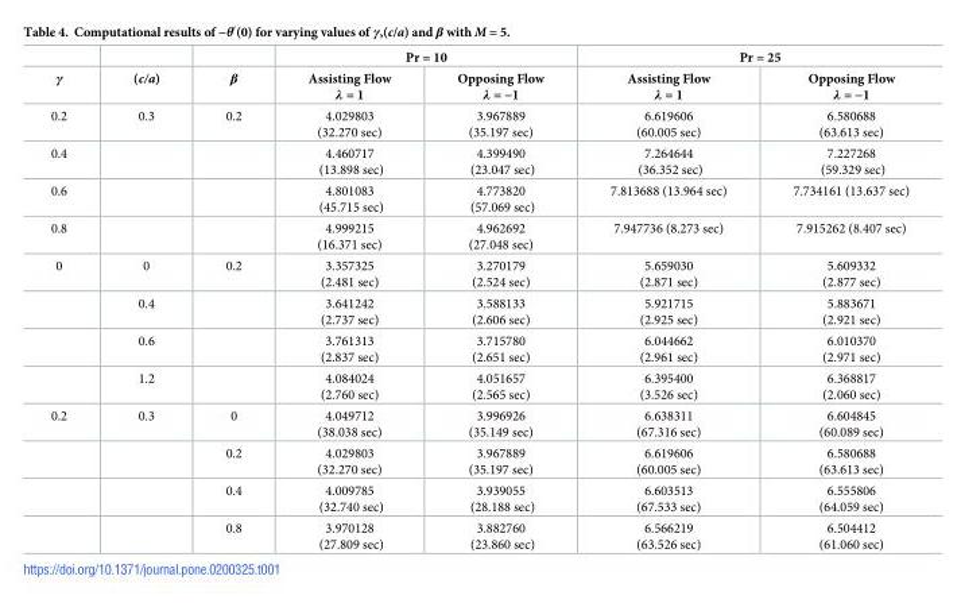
<table><thead><tr><td rowspan="2">γ</td><td rowspan="2">(c/a)</td><td rowspan="2">β</td><td colspan="2">Pr = 10</td><td colspan="2">Pr = 25</td></tr><tr><td>Assisting Flow λ = 1</td><td>Opposing Flow λ = −1</td><td>Assisting Flow λ = 1</td><td>Opposing Flow λ = −1</td></tr></thead><tbody><tr><td>0.2</td><td>0.3</td><td>0.2</td><td>4.029803 (32.270 sec)</td><td>3.967889 (35.197 sec)</td><td>6.619606 (60.005 sec)</td><td>6.580688 (63.613 sec)</td></tr><tr><td>0.4</td><td></td><td></td><td>4.460717 (13.898 sec)</td><td>4.399490 (23.047 sec)</td><td>7.264644 (36.352 sec)</td><td>7.227268 (59.329 sec)</td></tr><tr><td>0.6</td><td></td><td></td><td>4.801083 (45.715 sec)</td><td>4.773820 (57.069 sec)</td><td>7.813688 (13.964 sec)</td><td>7.734161 (13.637 sec)</td></tr><tr><td>0.8</td><td></td><td></td><td>4.999215 (16.371 sec)</td><td>4.962692 (27.048 sec)</td><td>7.947736 (8.273 sec)</td><td>7.915262 (8.407 sec)</td></tr><tr><td rowspan="4">0</td><td>0</td><td>0.2</td><td>3.357325 (2.481 sec)</td><td>3.270179 (2.524 sec)</td><td>5.659030 (2.871 sec)</td><td>5.609332 (2.877 sec)</td></tr><tr><td>0.4</td><td></td><td>3.641242 (2.737 sec)</td><td>3.588133 (2.606 sec)</td><td>5.921715 (2.925 sec)</td><td>5.883671 (2.921 sec)</td></tr><tr><td>0.6</td><td></td><td>3.761313 (2.837 sec)</td><td>3.715780 (2.651 sec)</td><td>6.044662 (2.961 sec)</td><td>6.010370 (2.971 sec)</td></tr><tr><td>1.2</td><td></td><td>4.084024 (2.760 sec)</td><td>4.051657 (2.565 sec)</td><td>6.395400 (3.526 sec)</td><td>6.368817 (2.060 sec)</td></tr><tr><td rowspan="4">0.2</td><td>0.3</td><td>0</td><td>4.049712 (38.038 sec)</td><td>3.996926 (35.149 sec)</td><td>6.638311 (67.316 sec)</td><td>6.604845 (60.089 sec)</td></tr><tr><td></td><td>0.2</td><td>4.029803 (32.270 sec)</td><td>3.967889 (35.197 sec)</td><td>6.619606 (60.005 sec)</td><td>6.580688 (63.613 sec)</td></tr><tr><td></td><td>0.4</td><td>4.009785 (32.740 sec)</td><td>3.939055 (28.188 sec)</td><td>6.603513 (67.533 sec)</td><td>6.555806 (64.059 sec)</td></tr><tr><td></td><td>0.8</td><td>3.970128 (27.809 sec)</td><td>3.882760 (23.860 sec)</td><td>6.566219 (63.526 sec)</td><td>6.504412 (61.060 sec)</td></tr></tbody></table>